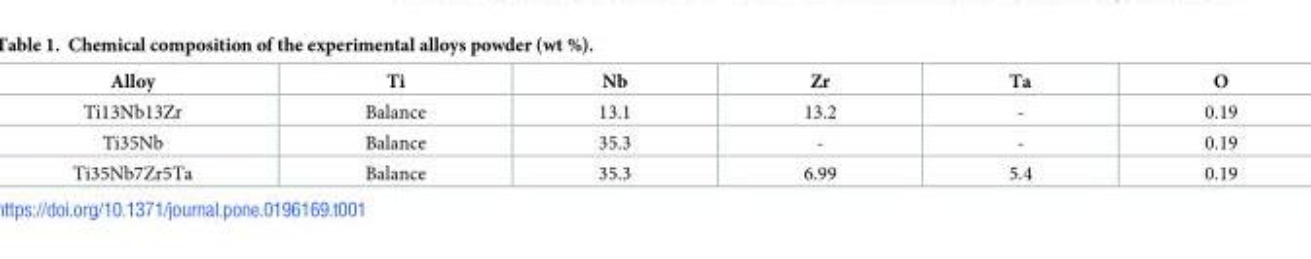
<table><thead><tr><td>Alloy</td><td>Ti</td><td>Nb</td><td>Zr</td><td>Ta</td><td>O</td></tr></thead><tbody><tr><td>Ti13Nb13Zr</td><td>Balance</td><td>13.1</td><td>13.2</td><td>-</td><td>0.19</td></tr><tr><td>Ti35Nb</td><td>Balance</td><td>35.3</td><td>-</td><td>-</td><td>0.19</td></tr><tr><td>Ti35Nb7Zr5Ta</td><td>Balance</td><td>35.3</td><td>6.99</td><td>5.4</td><td>0.19</td></tr></tbody></table>